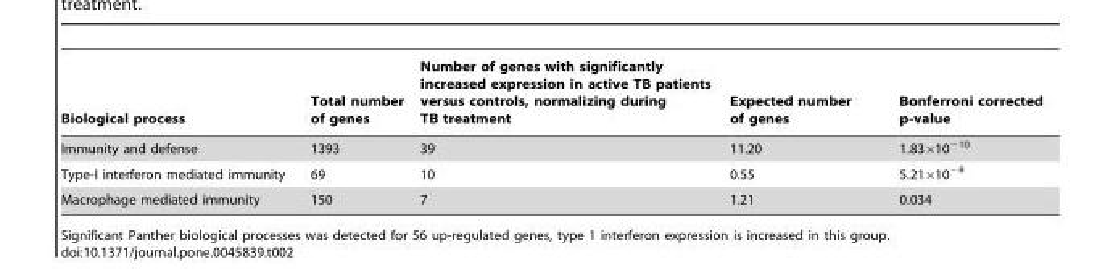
<table><thead><tr><td>Biological process</td><td>Total number of genes</td><td>Number of genes with significantly increased expression in active TB patients versus controls, normalizing during TB treatment</td><td>Expected number of genes</td><td>Bonferroni corrected p-value</td></tr></thead><tbody><tr><td>Immunity and defense</td><td>1393</td><td>39</td><td>11.20</td><td>1.83×10<sup>−10</sup></td></tr><tr><td>Type-I interferon mediated immunity</td><td>69</td><td>10</td><td>0.55</td><td>5.21×10<sup>−8</sup></td></tr><tr><td>Macrophage mediated immunity</td><td>150</td><td>7</td><td>1.21</td><td>0.034</td></tr></tbody></table>